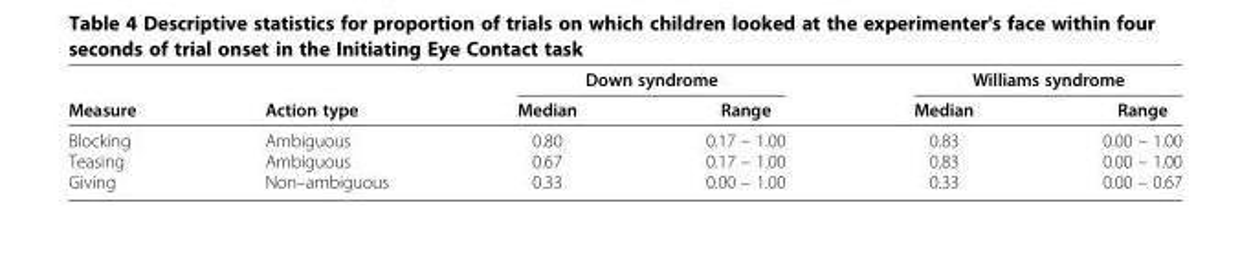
<table><thead><tr><td rowspan="2">Measure</td><td rowspan="2">Action type</td><td colspan="2">Down syndrome</td><td colspan="2">Williams syndrome</td></tr><tr><td>Median</td><td>Range</td><td>Median</td><td>Range</td></tr></thead><tbody><tr><td>Blocking</td><td>Ambiguous</td><td>0.80</td><td>0.17 – 1.00</td><td>0.83</td><td>0.00 – 1.00</td></tr><tr><td>Teasing</td><td>Ambiguous</td><td>0.67</td><td>0.17 – 1.00</td><td>0.83</td><td>0.00 – 1.00</td></tr><tr><td>Giving</td><td>Non–ambiguous</td><td>0.33</td><td>0.00 – 1.00</td><td>0.33</td><td>0.00 – 0.67</td></tr></tbody></table>